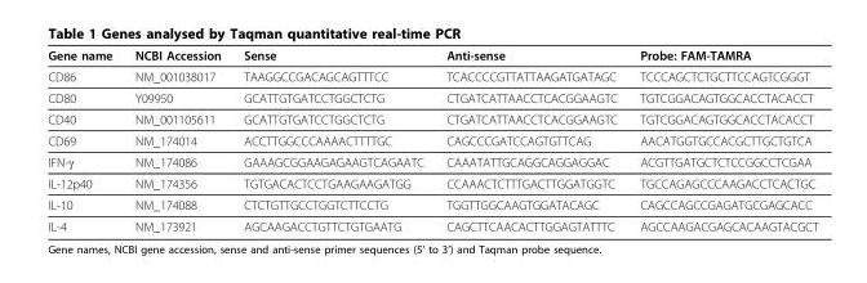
<table><thead><tr><td>Gene name</td><td>NCBI Accession</td><td>Sense</td><td>Anti-sense</td><td>Probe: FAM-TAMRA</td></tr></thead><tbody><tr><td>CD86</td><td>NM_001038017</td><td>TAAGGCCGACAGCAGTTTCC</td><td>TCACCCCGTTATTAAGATGATAGC</td><td>TCCCAGCTCTGCTTCCAGTCGGGT</td></tr><tr><td>CD80</td><td>Y09950</td><td>GCATTGTGATCCTGGCTCTG</td><td>CTGATCATTAACCTCACGGAAGTC</td><td>TGTCGGACAGTGGCACCTACACCT</td></tr><tr><td>CD40</td><td>NM_001105611</td><td>GCATTGTGATCCTGGCTCTG</td><td>CTGATCATTAACCTCACGGAAGTC</td><td>TGTCGGACAGTGGCACCTACACCT</td></tr><tr><td>CD69</td><td>NM_174014</td><td>ACCTTGGCCCAAAACTTTTGC</td><td>CAGCCCGATCCAGTGTTCAG</td><td>AACATGGTGCCACGCTTGCTGTCA</td></tr><tr><td>IFN-γ</td><td>NM_174086</td><td>GAAAGCGGAAGAGAAGTCAGAATC</td><td>CAAATATTGCAGGCAGGAGGAC</td><td>ACGTTGATGCTCTCCGGCCTCGAA</td></tr><tr><td>IL-12p40</td><td>NM_174356</td><td>TGTGACACTCCTGAAGAAGATGG</td><td>CCAAACTCTTTGACTTGGATGGTC</td><td>TGCCAGAGCCCAAGACCTCACTGC</td></tr><tr><td>IL-10</td><td>NM_174088</td><td>CTCTGTTGCCTGGTCTTCCTG</td><td>TGGTTGGCAAGTGGATACAGC</td><td>CAGCCAGCCGAGATGCGAGCACC</td></tr><tr><td>IL-4</td><td>NM_173921</td><td>AGCAAGACCTGTTCTGTGAATG</td><td>CAGCTTCAACACTTGGAGTATTTC</td><td>AGCCAAGACGAGCACAAGTACGCT</td></tr></tbody></table>